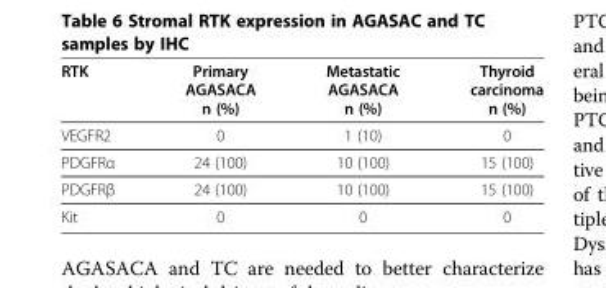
<table><thead><tr><td>RTK</td><td>Primary AGASACA n (%)</td><td>Metastatic AGASACA n (%)</td><td>Thyroid carcinoma n (%)</td></tr></thead><tbody><tr><td>VEGFR2</td><td>0</td><td>1 (10)</td><td>0</td></tr><tr><td>PDGFRα</td><td>24 (100)</td><td>10 (100)</td><td>15 (100)</td></tr><tr><td>PDGFRβ</td><td>24 (100)</td><td>10 (100)</td><td>15 (100)</td></tr><tr><td>Kit</td><td>0</td><td>0</td><td>0</td></tr></tbody></table>